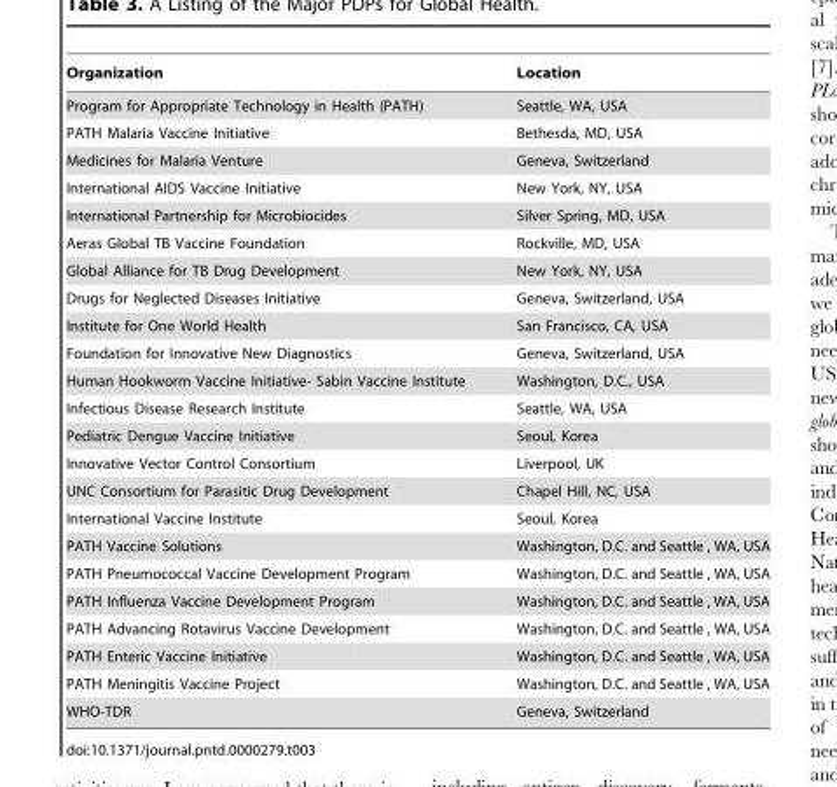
<table><thead><tr><td>Organization</td><td>Location</td></tr></thead><tbody><tr><td>Program for Appropriate Technology in Health (PATH)</td><td>Seattle, WA, USA</td></tr><tr><td>PATH Malaria Vaccine Initiative</td><td>Bethesda, MD, USA</td></tr><tr><td>Medicines for Malaria Venture</td><td>Geneva, Switzerland</td></tr><tr><td>International AIDS Vaccine Initiative</td><td>New York, NY, USA</td></tr><tr><td>International Partnership for Microbiocides</td><td>Silver Spring, MD, USA</td></tr><tr><td>Aeras Global TB Vaccine Foundation</td><td>Rockville, MD, USA</td></tr><tr><td>Global Alliance for TB Drug Development</td><td>New York, NY, USA</td></tr><tr><td>Drugs for Neglected Diseases Initiative</td><td>Geneva, Switzerland, USA</td></tr><tr><td>Institute for One World Health</td><td>San Francisco, CA, USA</td></tr><tr><td>Foundation for Innovative New Diagnostics</td><td>Geneva, Switzerland, USA</td></tr><tr><td>Human Hookworm Vaccine Initiative- Sabin Vaccine Institute</td><td>Washington, D.C., USA</td></tr><tr><td>Infectious Disease Research Institute</td><td>Seattle, WA, USA</td></tr><tr><td>Pediatric Dengue Vaccine Initiative</td><td>Seoul, Korea</td></tr><tr><td>Innovative Vector Control Consortium</td><td>Liverpool, UK</td></tr><tr><td>UNC Consortium for Parasitic Drug Development</td><td>Chapel Hill, NC, USA</td></tr><tr><td>International Vaccine Institute</td><td>Seoul, Korea</td></tr><tr><td>PATH Vaccine Solutions</td><td>Washington, D.C. and Seattle , WA, USA</td></tr><tr><td>PATH Pneumococcal Vaccine Development Program</td><td>Washington, D.C. and Seattle , WA, USA</td></tr><tr><td>PATH Influenza Vaccine Development Program</td><td>Washington, D.C. and Seattle , WA, USA</td></tr><tr><td>PATH Advancing Rotavirus Vaccine Development</td><td>Washington, D.C. and Seattle , WA, USA</td></tr><tr><td>PATH Enteric Vaccine Initiative</td><td>Washington, D.C. and Seattle , WA, USA</td></tr><tr><td>PATH Meningitis Vaccine Project</td><td>Washington, D.C. and Seattle , WA, USA</td></tr><tr><td>WHO-TDR</td><td>Geneva, Switzerland</td></tr></tbody></table>